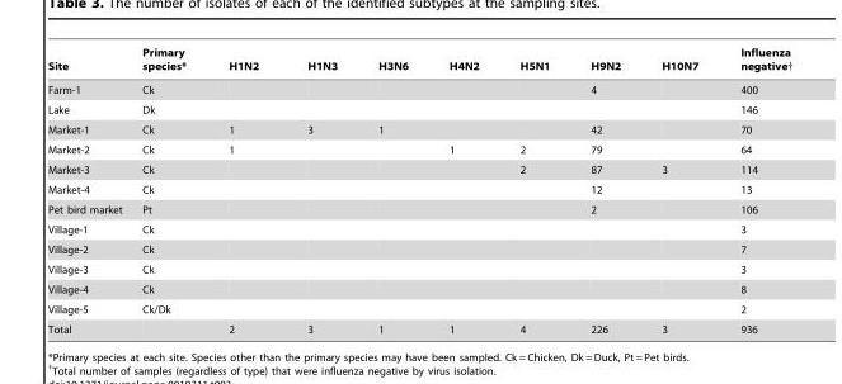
<table><thead><tr><td>Site</td><td>Primary species*</td><td>H1N2</td><td>H1N3</td><td>H3N6</td><td>H4N2</td><td>H5N1</td><td>H9N2</td><td>H10N7</td><td>Influenza negative†</td></tr></thead><tbody><tr><td>Farm-1</td><td>Ck</td><td></td><td></td><td></td><td></td><td></td><td>4</td><td></td><td>400</td></tr><tr><td>Lake</td><td>Dk</td><td></td><td></td><td></td><td></td><td></td><td></td><td></td><td>146</td></tr><tr><td>Market-1</td><td>Ck</td><td>1</td><td>3</td><td>1</td><td></td><td></td><td>42</td><td></td><td>70</td></tr><tr><td>Market-2</td><td>Ck</td><td>1</td><td></td><td></td><td>1</td><td>2</td><td>79</td><td></td><td>64</td></tr><tr><td>Market-3</td><td>Ck</td><td></td><td></td><td></td><td></td><td>2</td><td>87</td><td>3</td><td>114</td></tr><tr><td>Market-4</td><td>Ck</td><td></td><td></td><td></td><td></td><td></td><td>12</td><td></td><td>13</td></tr><tr><td>Pet bird market</td><td>Pt</td><td></td><td></td><td></td><td></td><td></td><td>2</td><td></td><td>106</td></tr><tr><td>Village-1</td><td>Ck</td><td></td><td></td><td></td><td></td><td></td><td></td><td></td><td>3</td></tr><tr><td>Village-2</td><td>Ck</td><td></td><td></td><td></td><td></td><td></td><td></td><td></td><td>7</td></tr><tr><td>Village-3</td><td>Ck</td><td></td><td></td><td></td><td></td><td></td><td></td><td></td><td>3</td></tr><tr><td>Village-4</td><td>Ck</td><td></td><td></td><td></td><td></td><td></td><td></td><td></td><td>8</td></tr><tr><td>Village-5</td><td>Ck/Dk</td><td></td><td></td><td></td><td></td><td></td><td></td><td></td><td>2</td></tr><tr><td>Total</td><td></td><td>2</td><td>3</td><td>1</td><td>1</td><td>4</td><td>226</td><td>3</td><td>936</td></tr></tbody></table>